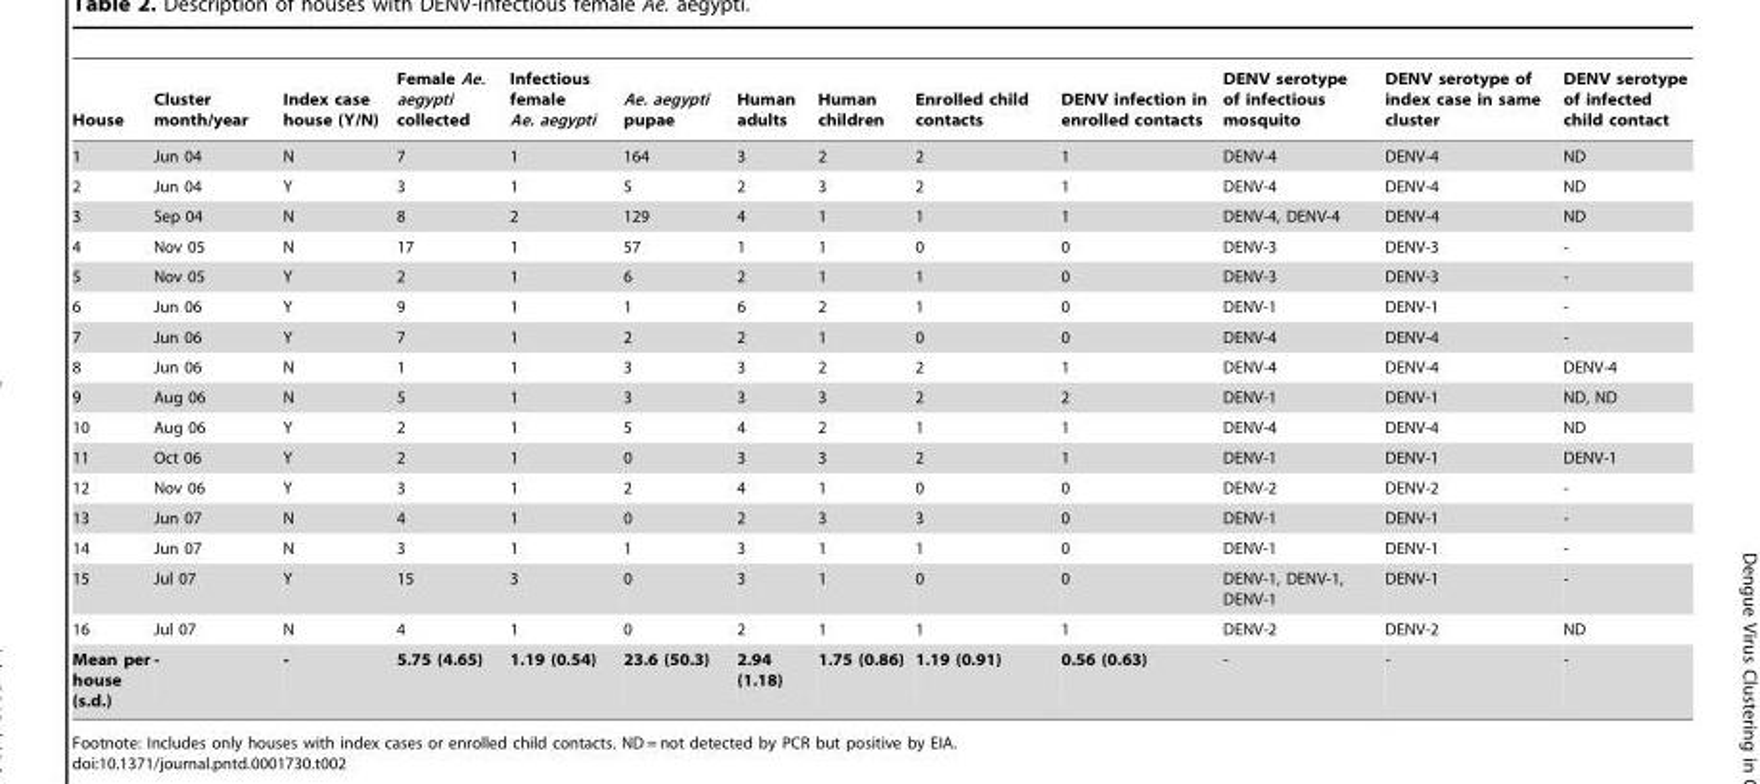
<table><thead><tr><td>House</td><td>Cluster month/year</td><td>Index case house (Y/N)</td><td>Female Ae. aegypti collected</td><td>Infectious female Ae. aegypti</td><td>Ae. aegypti pupae</td><td>Human adults</td><td>Human children</td><td>Enrolled child contacts</td><td>DENV infection in enrolled contacts</td><td>DENV serotype of infectious mosquito</td><td>DENV serotype of index case in same cluster</td><td>DENV serotype of infected child contact</td></tr></thead><tbody><tr><td>1</td><td>Jun 04</td><td>N</td><td>7</td><td>1</td><td>164</td><td>3</td><td>2</td><td>2</td><td>1</td><td>DENV-4</td><td>DENV-4</td><td>ND</td></tr><tr><td>2</td><td>Jun 04</td><td>Y</td><td>3</td><td>1</td><td>5</td><td>2</td><td>3</td><td>2</td><td>1</td><td>DENV-4</td><td>DENV-4</td><td>ND</td></tr><tr><td>3</td><td>Sep 04</td><td>N</td><td>8</td><td>2</td><td>129</td><td>4</td><td>1</td><td>1</td><td>1</td><td>DENV-4, DENV-4</td><td>DENV-4</td><td>ND</td></tr><tr><td>4</td><td>Nov 05</td><td>N</td><td>17</td><td>1</td><td>57</td><td>1</td><td>1</td><td>0</td><td>0</td><td>DENV-3</td><td>DENV-3</td><td>-</td></tr><tr><td>5</td><td>Nov 05</td><td>Y</td><td>2</td><td>1</td><td>6</td><td>2</td><td>1</td><td>1</td><td>0</td><td>DENV-3</td><td>DENV-3</td><td>-</td></tr><tr><td>6</td><td>Jun 06</td><td>Y</td><td>9</td><td>1</td><td>1</td><td>6</td><td>2</td><td>1</td><td>0</td><td>DENV-1</td><td>DENV-1</td><td>-</td></tr><tr><td>7</td><td>Jun 06</td><td>Y</td><td>7</td><td>1</td><td>2</td><td>2</td><td>1</td><td>0</td><td>0</td><td>DENV-4</td><td>DENV-4</td><td>-</td></tr><tr><td>8</td><td>Jun 06</td><td>N</td><td>1</td><td>1</td><td>3</td><td>3</td><td>2</td><td>2</td><td>1</td><td>DENV-4</td><td>DENV-4</td><td>DENV-4</td></tr><tr><td>9</td><td>Aug 06</td><td>N</td><td>5</td><td>1</td><td>3</td><td>3</td><td>3</td><td>2</td><td>2</td><td>DENV-1</td><td>DENV-1</td><td>ND, ND</td></tr><tr><td>10</td><td>Aug 06</td><td>Y</td><td>2</td><td>1</td><td>5</td><td>4</td><td>2</td><td>1</td><td>1</td><td>DENV-4</td><td>DENV-4</td><td>ND</td></tr><tr><td>11</td><td>Oct 06</td><td>Y</td><td>2</td><td>1</td><td>0</td><td>3</td><td>3</td><td>2</td><td>1</td><td>DENV-1</td><td>DENV-1</td><td>DENV-1</td></tr><tr><td>12</td><td>Nov 06</td><td>Y</td><td>3</td><td>1</td><td>2</td><td>4</td><td>1</td><td>0</td><td>0</td><td>DENV-2</td><td>DENV-2</td><td>-</td></tr><tr><td>13</td><td>Jun 07</td><td>N</td><td>4</td><td>1</td><td>0</td><td>2</td><td>3</td><td>3</td><td>0</td><td>DENV-1</td><td>DENV-1</td><td>-</td></tr><tr><td>14</td><td>Jun 07</td><td>N</td><td>3</td><td>1</td><td>1</td><td>3</td><td>1</td><td>1</td><td>0</td><td>DENV-1</td><td>DENV-1</td><td>-</td></tr><tr><td>15</td><td>Jul 07</td><td>Y</td><td>15</td><td>3</td><td>0</td><td>3</td><td>1</td><td>0</td><td>0</td><td>DENV-1, DENV-1, DENV-1</td><td>DENV-1</td><td>-</td></tr><tr><td>16</td><td>Jul 07</td><td>N</td><td>4</td><td>1</td><td>0</td><td>2</td><td>1</td><td>1</td><td>1</td><td>DENV-2</td><td>DENV-2</td><td>ND</td></tr><tr><td>Mean per house (s.d.)</td><td>-</td><td>-</td><td>5.75 (4.65)</td><td>1.19 (0.54)</td><td>23.6 (50.3)</td><td>2.94 (1.18)</td><td>1.75 (0.86)</td><td>1.19 (0.91)</td><td>0.56 (0.63)</td><td>-</td><td>-</td><td>-</td></tr></tbody></table>